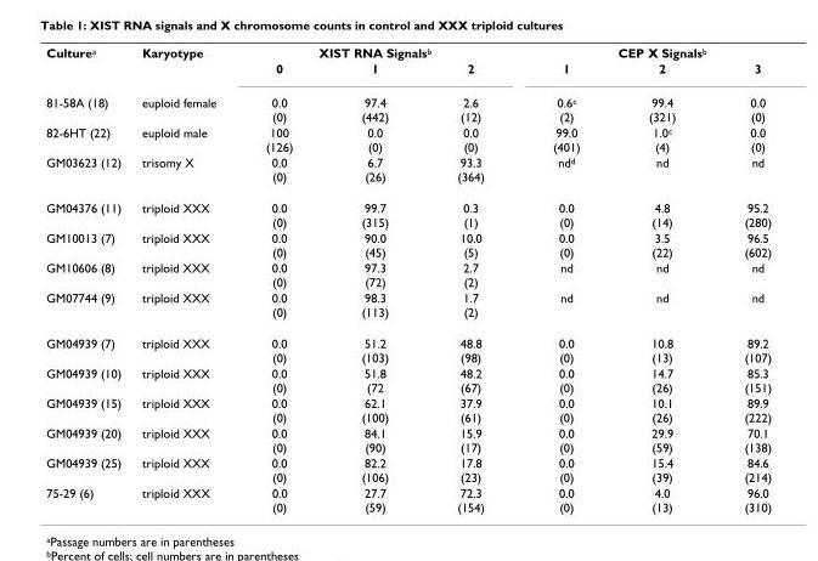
<table><tbody><tr><td rowspan="2">Culture<sup>a</sup></td><td>Karyotype</td><td colspan="3">XIST RNA Signals<sup>b</sup></td><td colspan="3">CEP X Signals<sup>b</sup></td></tr><tr><td></td><td>0</td><td>1</td><td>2</td><td>1</td><td>2</td><td>3</td></tr><tr><td>81-58A (18)</td><td>euploid female</td><td>0.0 (0)</td><td>97.4 (442)</td><td>2.6 (12)</td><td>0.6<sup>c</sup> (2)</td><td>99.4 (321)</td><td>0.0 (0)</td></tr><tr><td>82-6HT (22)</td><td>euploid male</td><td>100 (126)</td><td>0.0 (0)</td><td>0.0 (0)</td><td>99.0 (401)</td><td>1.0<sup>c</sup> (4)</td><td>0.0 (0)</td></tr><tr><td>GM03623 (12)</td><td>trisomy X</td><td>0.0 (0)</td><td>6.7 (26)</td><td>93.3 (364)</td><td>nd<sup>d</sup></td><td>nd</td><td>nd</td></tr><tr><td>GM04376 (11)</td><td>triploid XXX</td><td>0.0 (0)</td><td>99.7 (315)</td><td>0.3 (1)</td><td>0.0 (0)</td><td>4.8 (14)</td><td>95.2 (280)</td></tr><tr><td>GM10013 (7)</td><td>triploid XXX</td><td>0.0 (0)</td><td>90.0 (45)</td><td>10.0 (5)</td><td>0.0 (0)</td><td>3.5 (22)</td><td>96.5 (602)</td></tr><tr><td>GM10606 (8)</td><td>triploid XXX</td><td>0.0 (0)</td><td>97.3 (72)</td><td>2.7 (2)</td><td>nd</td><td>nd</td><td>nd</td></tr><tr><td>GM07744 (9)</td><td>triploid XXX</td><td>0.0 (0)</td><td>98.3 (113)</td><td>1.7 (2)</td><td>nd</td><td>nd</td><td>nd</td></tr><tr><td>GM04939 (7)</td><td>triploid XXX</td><td>0.0 (0)</td><td>51.2 (103)</td><td>48.8 (98)</td><td>0.0 (0)</td><td>10.8 (13)</td><td>89.2 (107)</td></tr><tr><td>GM04939 (10)</td><td>triploid XXX</td><td>0.0 (0)</td><td>51.8 (72</td><td>48.2 (67)</td><td>0.0 (0)</td><td>14.7 (26)</td><td>85.3 (151)</td></tr><tr><td>GM04939 (15)</td><td>triploid XXX</td><td>0.0 (0)</td><td>62.1 (100)</td><td>37.9 (61)</td><td>0.0 (0)</td><td>10.1 (26)</td><td>89.9 (222)</td></tr><tr><td>GM04939 (20)</td><td>triploid XXX</td><td>0.0 (0)</td><td>84.1 (90)</td><td>15.9 (17)</td><td>0.0 (0)</td><td>29.9 (59)</td><td>70.1 (138)</td></tr><tr><td>GM04939 (25)</td><td>triploid XXX</td><td>0.0 (0)</td><td>82.2 (106)</td><td>17.8 (23)</td><td>0.0 (0)</td><td>15.4 (39)</td><td>84.6 (214)</td></tr><tr><td>75-29 (6)</td><td>triploid XXX</td><td>0.0 (0)</td><td>27.7 (59)</td><td>72.3 (154)</td><td>0.0 (0)</td><td>4.0 (13)</td><td>96.0 (310)</td></tr></tbody></table>